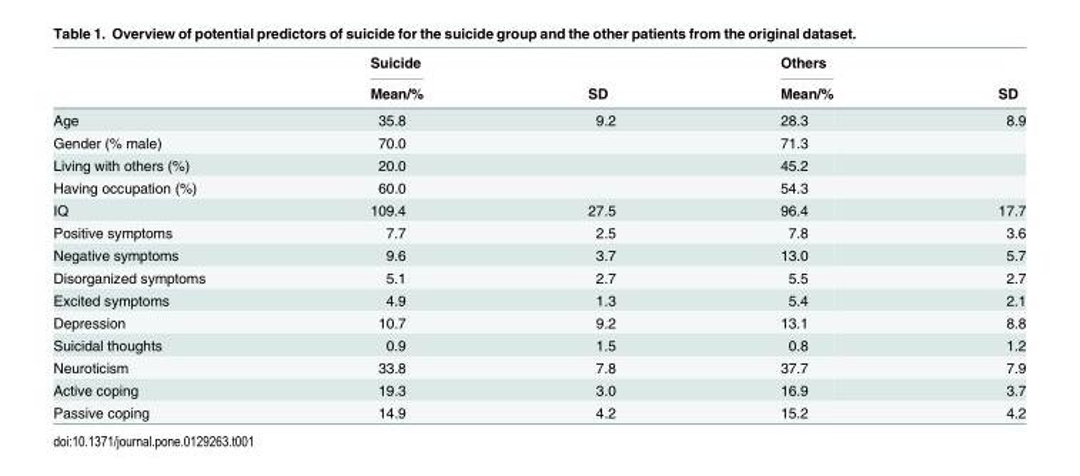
<table><thead><tr><td rowspan="2"></td><td rowspan="2">Suicide Mean/%</td><td rowspan="2">SD</td><td rowspan="2">Others Mean/%</td><td rowspan="2">SD</td></tr><tr></tr></thead><tbody><tr><td>Age</td><td>35.8</td><td>9.2</td><td>28.3</td><td>8.9</td></tr><tr><td>Gender (% male)</td><td>70.0</td><td></td><td>71.3</td><td></td></tr><tr><td>Living with others (%)</td><td>20.0</td><td></td><td>45.2</td><td></td></tr><tr><td>Having occupation (%)</td><td>60.0</td><td></td><td>54.3</td><td></td></tr><tr><td>IQ</td><td>109.4</td><td>27.5</td><td>96.4</td><td>17.7</td></tr><tr><td>Positive symptoms</td><td>7.7</td><td>2.5</td><td>7.8</td><td>3.6</td></tr><tr><td>Negative symptoms</td><td>9.6</td><td>3.7</td><td>13.0</td><td>5.7</td></tr><tr><td>Disorganized symptoms</td><td>5.1</td><td>2.7</td><td>5.5</td><td>2.7</td></tr><tr><td>Excited symptoms</td><td>4.9</td><td>1.3</td><td>5.4</td><td>2.1</td></tr><tr><td>Depression</td><td>10.7</td><td>9.2</td><td>13.1</td><td>8.8</td></tr><tr><td>Suicidal thoughts</td><td>0.9</td><td>1.5</td><td>0.8</td><td>1.2</td></tr><tr><td>Neuroticism</td><td>33.8</td><td>7.8</td><td>37.7</td><td>7.9</td></tr><tr><td>Active coping</td><td>19.3</td><td>3.0</td><td>16.9</td><td>3.7</td></tr><tr><td>Passive coping</td><td>14.9</td><td>4.2</td><td>15.2</td><td>4.2</td></tr></tbody></table>